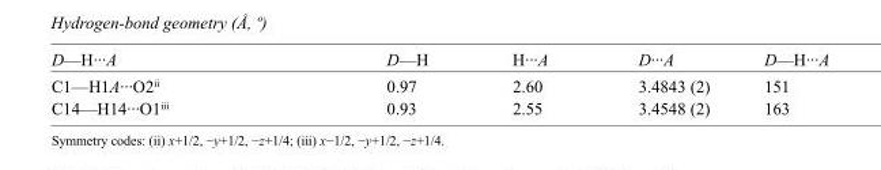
<table><tbody><tr><td>D—H···A</td><td>D—H</td><td>H···A</td><td>D···A</td><td>D—H···A</td></tr><tr><td>C1—H1A···O2<sup>ii</sup></td><td>0.97</td><td>2.60</td><td>3.4843 (2)</td><td>151</td></tr><tr><td>C14—H14···O1<sup>iii</sup></td><td>0.93</td><td>2.55</td><td>3.4548 (2)</td><td>163</td></tr></tbody></table>